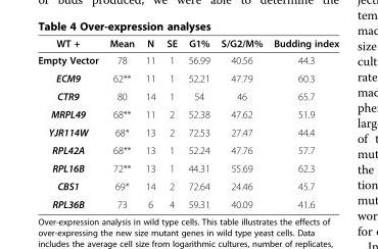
<table><thead><tr><td>WT +</td><td>Mean</td><td>N</td><td>SE</td><td>G1%</td><td>S/G2/M%</td><td>Budding index</td></tr></thead><tbody><tr><td>Empty Vector</td><td>78</td><td>11</td><td>1</td><td>56.99</td><td>40.56</td><td>44.3</td></tr><tr><td>ECM9</td><td>62**</td><td>11</td><td>1</td><td>52.21</td><td>47.79</td><td>60.3</td></tr><tr><td>CTR9</td><td>80</td><td>14</td><td>1</td><td>54</td><td>46</td><td>65.7</td></tr><tr><td>MRPL49</td><td>68**</td><td>11</td><td>2</td><td>52.38</td><td>47.62</td><td>51.9</td></tr><tr><td>YJR114W</td><td>68*</td><td>13</td><td>2</td><td>72.53</td><td>27.47</td><td>44.4</td></tr><tr><td>RPL42A</td><td>68**</td><td>13</td><td>1</td><td>52.24</td><td>47.76</td><td>57.7</td></tr><tr><td>RPL16B</td><td>72**</td><td>13</td><td>1</td><td>44.31</td><td>55.69</td><td>62.3</td></tr><tr><td>CBS1</td><td>69*</td><td>14</td><td>2</td><td>72.64</td><td>24.46</td><td>45.7</td></tr><tr><td>RPL36B</td><td>73</td><td>6</td><td>4</td><td>59.31</td><td>40.09</td><td>41.6</td></tr></tbody></table>